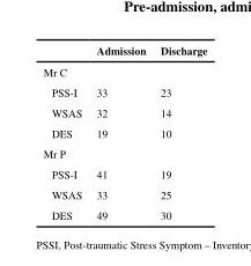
<table><thead><tr><td></td><td>Admission</td><td>Discharge</td></tr></thead><tbody><tr><td colspan="3">Mr C</td></tr><tr><td>PSS-I</td><td>33</td><td>23</td></tr><tr><td>WSAS</td><td>32</td><td>14</td></tr><tr><td>DES</td><td>19</td><td>10</td></tr><tr><td colspan="3">Mr P</td></tr><tr><td>PSS-I</td><td>41</td><td>19</td></tr><tr><td>WSAS</td><td>33</td><td>25</td></tr><tr><td>DES</td><td>49</td><td>30</td></tr></tbody></table>